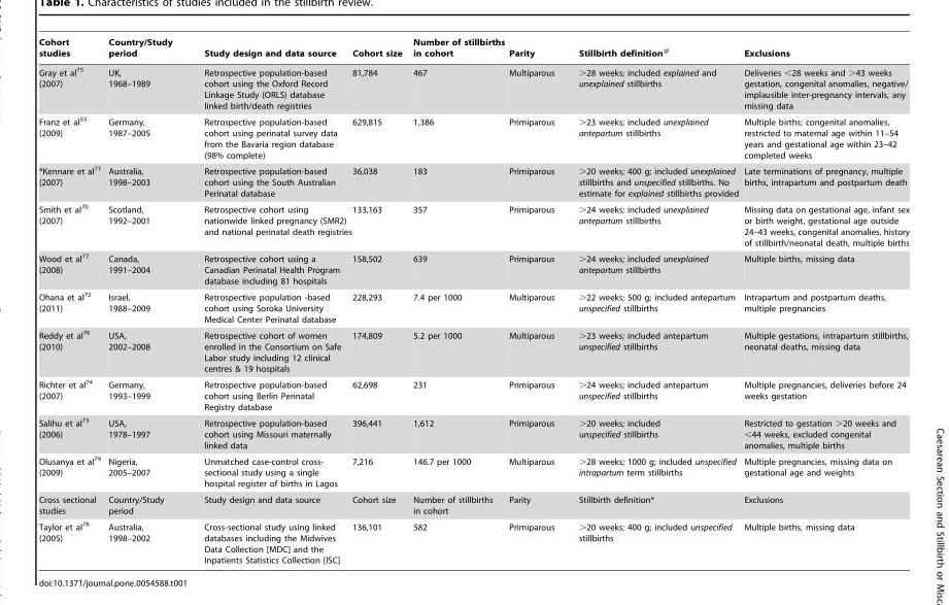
<table><thead><tr><td>Cohort studies</td><td>Country/Study period</td><td>Study design and data source</td><td>Cohort size</td><td>Number of stillbirths in cohort</td><td>Parity</td><td>Stillbirth definition<sup>#</sup></td><td>Exclusions</td></tr></thead><tbody><tr><td>Gray et al<sup>75</sup> (2007)</td><td>UK, 1968–1989</td><td>Retrospective population-based cohort using the Oxford Record Linkage Study (ORLS) database linked birth/death registries</td><td>81,784</td><td>467</td><td>Multiparous</td><td>&gt;28 weeks; included explained and unexplained stillbirths</td><td>Deliveries &lt;28 weeks and &gt;43 weeks gestation, congenital anomalies, negative/ implausible inter-pregnancy intervals, any missing data</td></tr><tr><td>Franz et al<sup>53</sup> (2009)</td><td>Germany, 1987–2005</td><td>Retrospective population-based cohort using perinatal survey data from the Bavaria region database (98% complete)</td><td>629,815</td><td>1,386</td><td>Primiparous</td><td>&gt;23 weeks; included unexplained antepartum stillbirths</td><td>Multiple births; congenital anomalies, restricted to maternal age within 11–54 years and gestational age within 23–42 completed weeks</td></tr><tr><td>*Kennare et al<sup>71</sup> (2007)</td><td>Australia, 1998–2003</td><td>Retrospective population-based cohort using the South Australian Perinatal database</td><td>36,038</td><td>183</td><td>Primiparous</td><td>&gt;20 weeks; 400 g; included unexplained stillbirths and unspecified stillbirths. No estimate for explained stillbirths provided</td><td>Late terminations of pregnancy, multiple births, intrapartum and postpartum death</td></tr><tr><td>Smith et al<sup>70</sup> (2007)</td><td>Scotland, 1992–2001</td><td>Retrospective cohort using nationwide linked pregnancy (SMR2) and national perinatal death registries</td><td>133,163</td><td>357</td><td>Primiparous</td><td>&gt;24 weeks; included unexplained antepartum stillbirths</td><td>Missing data on gestational age, infant sex or birth weight, gestational age outside 24–43 weeks, congenital anomalies, history of stillbirth/neonatal death, multiple births</td></tr><tr><td>Wood et al<sup>77</sup> (2008)</td><td>Canada, 1991–2004</td><td>Retrospective cohort using a Canadian Perinatal Health Program database including 81 hospitals</td><td>158,502</td><td>639</td><td>Primiparous</td><td>&gt;24 weeks; included unexplained antepartum stillbirths</td><td>Multiple births, missing data</td></tr><tr><td>Ohana et al<sup>72</sup> (2011)</td><td>Israel, 1988–2009</td><td>Retrospective population -based cohort using Soroka University Medical Center Perinatal database</td><td>228,293</td><td>7.4 per 1000</td><td>Multiparous</td><td>&gt;22 weeks; 500 g; included antepartum unspecified stillbirths</td><td>Intrapartum and postpartum deaths, multiple pregnancies</td></tr><tr><td>Reddy et al<sup>76</sup> (2010)</td><td>USA, 2002–2008</td><td>Retrospective cohort of women enrolled in the Consortium on Safe Labor study including 12 clinical centres &amp; 19 hospitals</td><td>174,809</td><td>5.2 per 1000</td><td>Multiparous</td><td>&gt;23 weeks; included antepartum unspecified stillbirths</td><td>Multiple gestations, intrapartum stillbirths, neonatal deaths, missing data</td></tr><tr><td>Richter et al<sup>74</sup> (2007)</td><td>Germany, 1993–1999</td><td>Retrospective population-based cohort using Berlin Perinatal Registry database</td><td>62,698</td><td>231</td><td>Primiparous</td><td>&gt;24 weeks; included antepartum unspecified stillbirths</td><td>Multiple pregnancies, deliveries before 24 weeks gestation</td></tr><tr><td>Salihu et al<sup>73</sup> (2006)</td><td>USA, 1978–1997</td><td>Retrospective population-based cohort using Missouri maternally linked data</td><td>396,441</td><td>1,612</td><td>Primiparous</td><td>&gt;20 weeks; included unspecified stillbirths</td><td>Restricted to gestation &gt;20 weeks and &lt;44 weeks, excluded congenital anomalies, multiple births</td></tr><tr><td>Olusanya et al<sup>79</sup> (2009)</td><td>Nigeria, 2005–2007</td><td>Unmatched case-control cross- sectional study using a single hospital register of births in Lagos</td><td>7,216</td><td>146.7 per 1000</td><td>Multiparous</td><td>&gt;28 weeks; 1000 g; included unspecified intrapartum term stillbirths</td><td>Multiple pregnancies, missing data on gestational age and weights</td></tr><tr><td>Cross sectional studies</td><td>Country/Study period</td><td>Study design and data source</td><td>Cohort size</td><td>Number of stillbirths in cohort</td><td>Parity</td><td>Stillbirth definition*</td><td>Exclusions</td></tr><tr><td>Taylor et al<sup>78</sup> (2005)</td><td>Australia, 1998–2002</td><td>Cross-sectional study using linked databases including the Midwives Data Collection [MDC] and the Inpatients Statistics Collection [ISC]</td><td>136,101</td><td>582</td><td>Primiparous</td><td>&gt;20 weeks; 400 g; included unspecified stillbirths</td><td>Multiple births, missing data</td></tr></tbody></table>